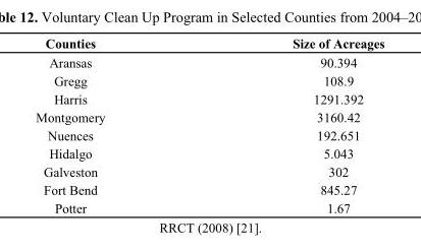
<table><thead><tr><td>Counties</td><td>Size of Acreages</td></tr></thead><tbody><tr><td>Aransas</td><td>90.394</td></tr><tr><td>Gregg</td><td>108.9</td></tr><tr><td>Harris</td><td>1291.392</td></tr><tr><td>Montgomery</td><td>3160.42</td></tr><tr><td>Nuences</td><td>192.651</td></tr><tr><td>Hidalgo</td><td>5.043</td></tr><tr><td>Galveston</td><td>302</td></tr><tr><td>Fort Bend</td><td>845.27</td></tr><tr><td>Potter</td><td>1.67</td></tr></tbody></table>